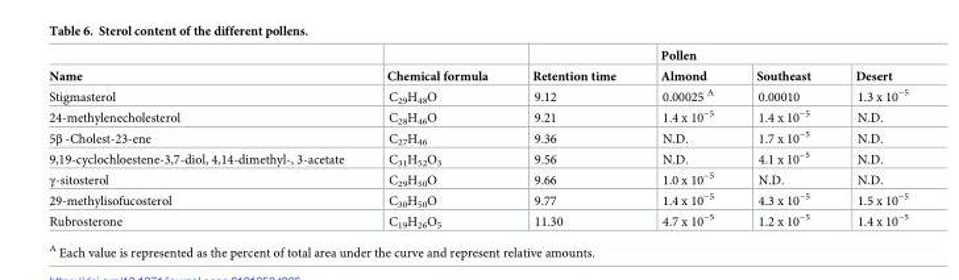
<table><thead><tr><td rowspan="2">Name</td><td rowspan="2">Chemical formula</td><td rowspan="2">Retention time</td><td colspan="3">Pollen</td></tr><tr><td>Almond</td><td>Southeast</td><td>Desert</td></tr></thead><tbody><tr><td>Stigmasterol</td><td>C<sub>29</sub>H<sub>48</sub>O</td><td>9.12</td><td>0.00025 <sup>A</sup></td><td>0.00010</td><td>1.3 x 10<sup>−5</sup></td></tr><tr><td>24-methylenecholesterol</td><td>C<sub>28</sub>H<sub>46</sub>O</td><td>9.21</td><td>1.4 x 10<sup>−5</sup></td><td>1.4 x 10<sup>−5</sup></td><td>N.D.</td></tr><tr><td>5β -Cholest-23-ene</td><td>C<sub>27</sub>H<sub>46</sub></td><td>9.36</td><td>N.D.</td><td>1.7 x 10<sup>−5</sup></td><td>N.D.</td></tr><tr><td>9,19-cyclochloestene-3,7-diol, 4,14-dimethyl-, 3-acetate</td><td>C<sub>31</sub>H<sub>52</sub>O<sub>3</sub></td><td>9.56</td><td>N.D.</td><td>4.1 x 10<sup>−5</sup></td><td>N.D.</td></tr><tr><td>γ-sitosterol</td><td>C<sub>29</sub>H<sub>50</sub>O</td><td>9.66</td><td>1.0 x 10<sup>−5</sup></td><td>N.D.</td><td>N.D.</td></tr><tr><td>29-methylisofucosterol</td><td>C<sub>30</sub>H<sub>50</sub>O</td><td>9.77</td><td>1.4 x 10<sup>−5</sup></td><td>4.3 x 10<sup>−5</sup></td><td>1.5 x 10<sup>−5</sup></td></tr><tr><td>Rubrosterone</td><td>C<sub>19</sub>H<sub>26</sub>O<sub>5</sub></td><td>11.30</td><td>4.7 x 10<sup>−5</sup></td><td>1.2 x 10<sup>−5</sup></td><td>1.4 x 10<sup>−5</sup></td></tr></tbody></table>